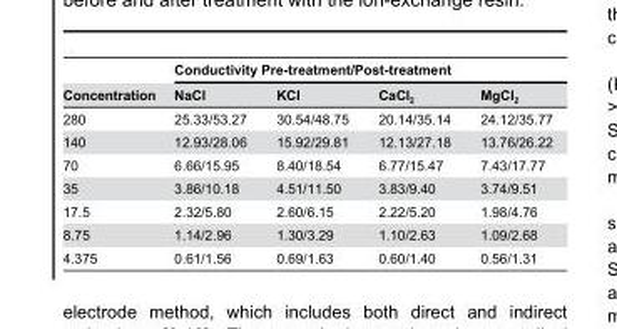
<table><thead><tr><td rowspan="2">Concentration</td><td colspan="4">Conductivity Pre-treatment/Post-treatment</td></tr><tr><td>NaCl</td><td>KCl</td><td>CaCl<sub>2</sub></td><td>MgCl<sub>2</sub></td></tr></thead><tbody><tr><td>280</td><td>25.33/53.27</td><td>30.54/48.75</td><td>20.14/35.14</td><td>24.12/35.77</td></tr><tr><td>140</td><td>12.93/28.06</td><td>15.92/29.81</td><td>12.13/27.18</td><td>13.76/26.22</td></tr><tr><td>70</td><td>6.66/15.95</td><td>8.40/18.54</td><td>6.77/15.47</td><td>7.43/17.77</td></tr><tr><td>35</td><td>3.86/10.18</td><td>4.51/11.50</td><td>3.83/9.40</td><td>3.74/9.51</td></tr><tr><td>17.5</td><td>2.32/5.80</td><td>2.60/6.15</td><td>2.22/5.20</td><td>1.98/4.76</td></tr><tr><td>8.75</td><td>1.14/2.96</td><td>1.30/3.29</td><td>1.10/2.63</td><td>1.09/2.68</td></tr><tr><td>4.375</td><td>0.61/1.56</td><td>0.69/1.63</td><td>0.60/1.40</td><td>0.56/1.31</td></tr></tbody></table>